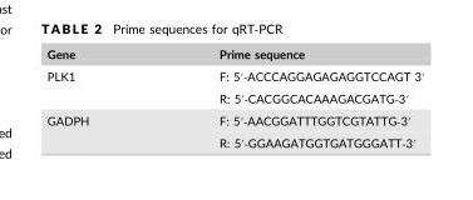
<table><thead><tr><td>Gene</td><td>Prime sequence</td></tr></thead><tbody><tr><td rowspan="2">PLK1</td><td>F: 5′‐ACCCAGGAGAGAGGTCCAGT 3′</td></tr><tr><td>R: 5′‐CACGGCACAAAGACGATG‐3′</td></tr><tr><td rowspan="2">GADPH</td><td>F: 5′‐AACGGATTTGGTCGTATTG‐3′</td></tr><tr><td>R: 5′‐GGAAGATGGTGATGGGATT‐3′</td></tr></tbody></table>